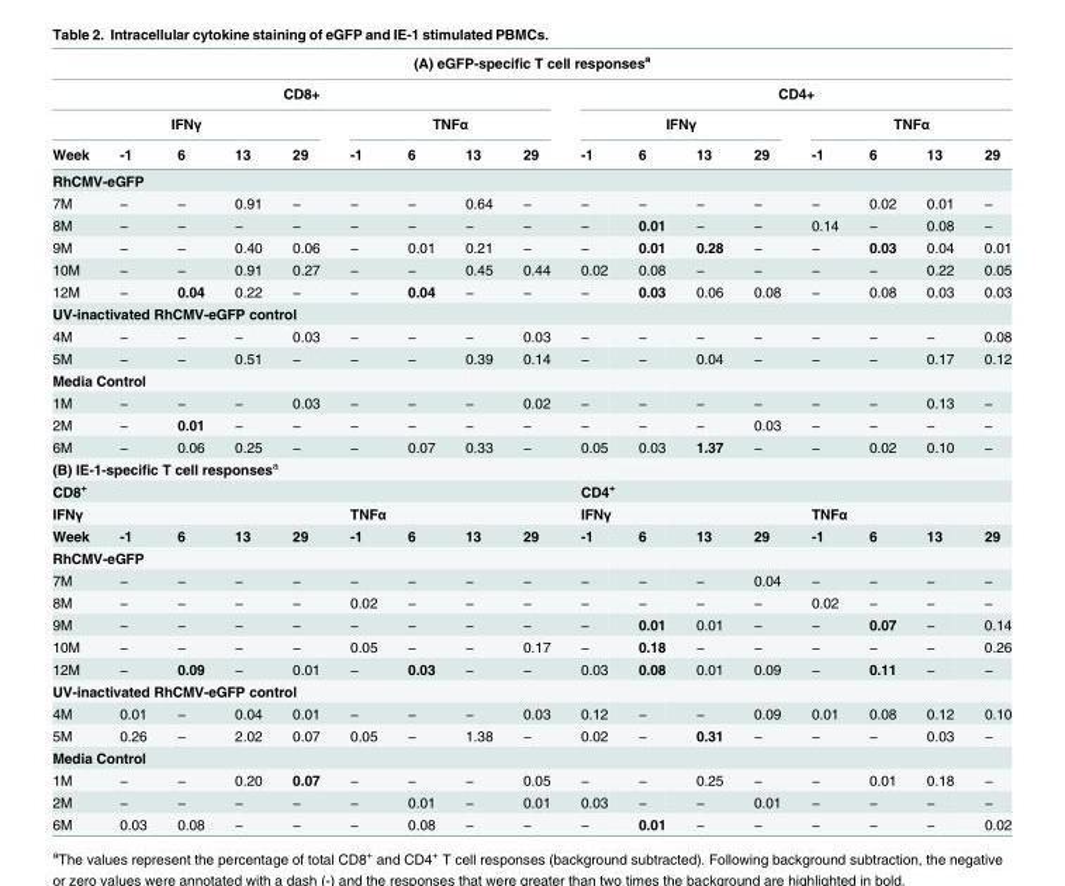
<table><thead><tr><td colspan="17">(A) eGFP-specific T cell responses<sup>a</sup></td></tr><tr><td colspan="9">CD8+</td><td colspan="8">CD4+</td></tr><tr><td colspan="5">IFNγ</td><td colspan="4">TNFα</td><td colspan="4">IFNγ</td><td colspan="4">TNFα</td></tr><tr><td>Week</td><td>-1</td><td>6</td><td>13</td><td>29</td><td>-1</td><td>6</td><td>13</td><td>29</td><td>-1</td><td>6</td><td>13</td><td>29</td><td>-1</td><td>6</td><td>13</td><td>29</td></tr></thead><tbody><tr><td colspan="17">RhCMV-eGFP</td></tr><tr><td>7M</td><td>−</td><td>−</td><td>0.91</td><td>−</td><td>−</td><td>−</td><td>0.64</td><td>−</td><td>−</td><td>−</td><td>−</td><td>−</td><td>−</td><td>0.02</td><td>0.01</td><td>−</td></tr><tr><td>8M</td><td>−</td><td>−</td><td>−</td><td>−</td><td>−</td><td>−</td><td>−</td><td>−</td><td>−</td><td>0.01</td><td>−</td><td>−</td><td>0.14</td><td>−</td><td>0.08</td><td>−</td></tr><tr><td>9M</td><td>−</td><td>−</td><td>0.40</td><td>0.06</td><td>−</td><td>0.01</td><td>0.21</td><td>−</td><td>−</td><td>0.01</td><td>0.28</td><td>−</td><td>−</td><td>0.03</td><td>0.04</td><td>0.01</td></tr><tr><td>10M</td><td>−</td><td>−</td><td>0.91</td><td>0.27</td><td>−</td><td>−</td><td>0.45</td><td>0.44</td><td>0.02</td><td>0.08</td><td>−</td><td>−</td><td>−</td><td>−</td><td>0.22</td><td>0.05</td></tr><tr><td>12M</td><td>−</td><td>0.04</td><td>0.22</td><td>−</td><td>−</td><td>0.04</td><td>−</td><td>−</td><td>−</td><td>0.03</td><td>0.06</td><td>0.08</td><td>−</td><td>0.08</td><td>0.03</td><td>0.03</td></tr><tr><td colspan="17">UV-inactivated RhCMV-eGFP control</td></tr><tr><td>4M</td><td>−</td><td>−</td><td>−</td><td>0.03</td><td>−</td><td>−</td><td>−</td><td>0.03</td><td>−</td><td>−</td><td>−</td><td>−</td><td>−</td><td>−</td><td>−</td><td>0.08</td></tr><tr><td>5M</td><td>−</td><td>−</td><td>0.51</td><td>−</td><td>−</td><td>−</td><td>0.39</td><td>0.14</td><td>−</td><td>−</td><td>0.04</td><td>−</td><td>−</td><td>−</td><td>0.17</td><td>0.12</td></tr><tr><td colspan="17">Media Control</td></tr><tr><td>1M</td><td>−</td><td>−</td><td>−</td><td>0.03</td><td>−</td><td>−</td><td>−</td><td>0.02</td><td>−</td><td>−</td><td>−</td><td>−</td><td>−</td><td>−</td><td>0.13</td><td>−</td></tr><tr><td>2M</td><td>−</td><td>0.01</td><td>−</td><td>−</td><td>−</td><td>−</td><td>−</td><td>−</td><td>−</td><td>−</td><td>−</td><td>0.03</td><td>−</td><td>−</td><td>−</td><td>−</td></tr><tr><td>6M</td><td>−</td><td>0.06</td><td>0.25</td><td>−</td><td>−</td><td>0.07</td><td>0.33</td><td>−</td><td>0.05</td><td>0.03</td><td>1.37</td><td>−</td><td>−</td><td>0.02</td><td>0.10</td><td>−</td></tr><tr><td colspan="17">(B) IE-1-specific T cell responses<sup>a</sup></td></tr><tr><td colspan="9">CD8<sup>+</sup></td><td colspan="8">CD4<sup>+</sup></td></tr><tr><td colspan="5">IFNγ</td><td colspan="4">TNFα</td><td colspan="4">IFNγ</td><td colspan="4">TNFα</td></tr><tr><td>Week</td><td>-1</td><td>6</td><td>13</td><td>29</td><td>-1</td><td>6</td><td>13</td><td>29</td><td>-1</td><td>6</td><td>13</td><td>29</td><td>-1</td><td>6</td><td>13</td><td>29</td></tr><tr><td colspan="17">RhCMV-eGFP</td></tr><tr><td>7M</td><td>−</td><td>−</td><td>−</td><td>−</td><td>−</td><td>−</td><td>−</td><td>−</td><td>−</td><td>−</td><td>−</td><td>0.04</td><td>−</td><td>−</td><td>−</td><td>−</td></tr><tr><td>8M</td><td>−</td><td>−</td><td>−</td><td>−</td><td>0.02</td><td>−</td><td>−</td><td>−</td><td>−</td><td>−</td><td>−</td><td>−</td><td>0.02</td><td>−</td><td>−</td><td>−</td></tr><tr><td>9M</td><td>−</td><td>−</td><td>−</td><td>−</td><td>−</td><td>−</td><td>−</td><td>−</td><td>−</td><td>0.01</td><td>0.01</td><td>−</td><td>−</td><td>0.07</td><td>−</td><td>0.14</td></tr><tr><td>10M</td><td>−</td><td>−</td><td>−</td><td>−</td><td>0.05</td><td>−</td><td>−</td><td>0.17</td><td>−</td><td>0.18</td><td>−</td><td>−</td><td>−</td><td>−</td><td>−</td><td>0.26</td></tr><tr><td>12M</td><td>−</td><td>0.09</td><td>−</td><td>0.01</td><td>−</td><td>0.03</td><td>−</td><td>−</td><td>0.03</td><td>0.08</td><td>0.01</td><td>0.09</td><td>−</td><td>0.11</td><td>−</td><td>−</td></tr><tr><td colspan="17">UV-inactivated RhCMV-eGFP control</td></tr><tr><td>4M</td><td>0.01</td><td>−</td><td>0.04</td><td>0.01</td><td>−</td><td>−</td><td>−</td><td>0.03</td><td>0.12</td><td>−</td><td>−</td><td>0.09</td><td>0.01</td><td>0.08</td><td>0.12</td><td>0.10</td></tr><tr><td>5M</td><td>0.26</td><td>−</td><td>2.02</td><td>0.07</td><td>0.05</td><td>−</td><td>1.38</td><td>−</td><td>0.02</td><td>−</td><td>0.31</td><td>−</td><td>−</td><td>−</td><td>0.03</td><td>−</td></tr><tr><td colspan="17">Media Control</td></tr><tr><td>1M</td><td>−</td><td>−</td><td>0.20</td><td>0.07</td><td>−</td><td>−</td><td>−</td><td>0.05</td><td>−</td><td>−</td><td>0.25</td><td>−</td><td>−</td><td>0.01</td><td>0.18</td><td>−</td></tr><tr><td>2M</td><td>−</td><td>−</td><td>−</td><td>−</td><td>−</td><td>0.01</td><td>−</td><td>0.01</td><td>0.03</td><td>−</td><td>−</td><td>0.01</td><td>−</td><td>−</td><td>−</td><td>−</td></tr><tr><td>6M</td><td>0.03</td><td>0.08</td><td>−</td><td>−</td><td>−</td><td>0.08</td><td>−</td><td>−</td><td>−</td><td>0.01</td><td>−</td><td>−</td><td>−</td><td>−</td><td>−</td><td>0.02</td></tr></tbody></table>